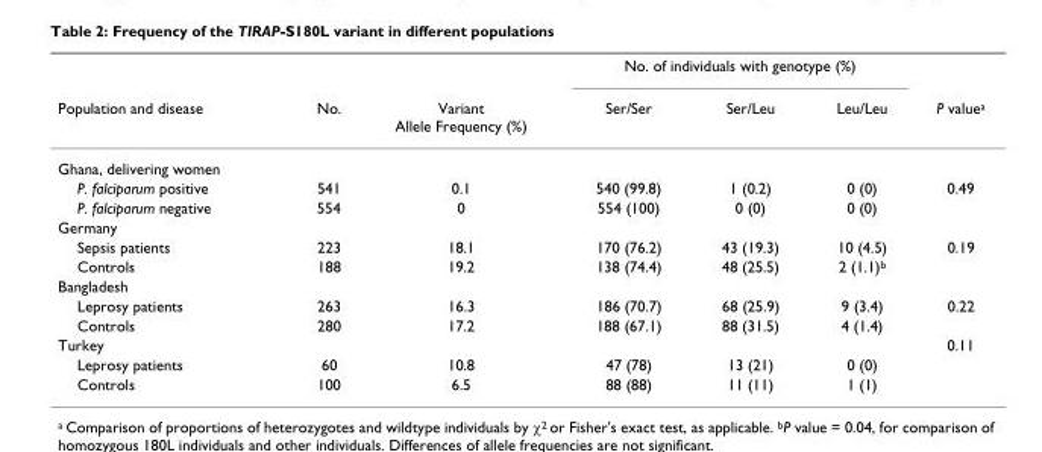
<table><thead><tr><td rowspan="2">Population and disease</td><td rowspan="2">No.</td><td rowspan="2">Variant Allele Frequency (%)</td><td colspan="3">No. of individuals with genotype (%)</td><td rowspan="2">P value<sup>a</sup></td></tr><tr><td>Ser/Ser</td><td>Ser/Leu</td><td>Leu/Leu</td></tr></thead><tbody><tr><td colspan="7">Ghana, delivering women</td></tr><tr><td>P. falciparum positive</td><td>541</td><td>0.1</td><td>540 (99.8)</td><td>1 (0.2)</td><td>0 (0)</td><td>0.49</td></tr><tr><td>P. falciparum negative</td><td>554</td><td>0</td><td>554 (100)</td><td>0 (0)</td><td>0 (0)</td><td></td></tr><tr><td colspan="7">Germany</td></tr><tr><td>Sepsis patients</td><td>223</td><td>18.1</td><td>170 (76.2)</td><td>43 (19.3)</td><td>10 (4.5)</td><td>0.19</td></tr><tr><td>Controls</td><td>188</td><td>19.2</td><td>138 (74.4)</td><td>48 (25.5)</td><td>2 (1.1)<sup>b</sup></td><td></td></tr><tr><td colspan="7">Bangladesh</td></tr><tr><td>Leprosy patients</td><td>263</td><td>16.3</td><td>186 (70.7)</td><td>68 (25.9)</td><td>9 (3.4)</td><td>0.22</td></tr><tr><td>Controls</td><td>280</td><td>17.2</td><td>188 (67.1)</td><td>88 (31.5)</td><td>4 (1.4)</td><td></td></tr><tr><td>Turkey</td><td></td><td></td><td></td><td></td><td></td><td>0.11</td></tr><tr><td>Leprosy patients</td><td>60</td><td>10.8</td><td>47 (78)</td><td>13 (21)</td><td>0 (0)</td><td></td></tr><tr><td>Controls</td><td>100</td><td>6.5</td><td>88 (88)</td><td>11 (11)</td><td>1 (1)</td><td></td></tr></tbody></table>